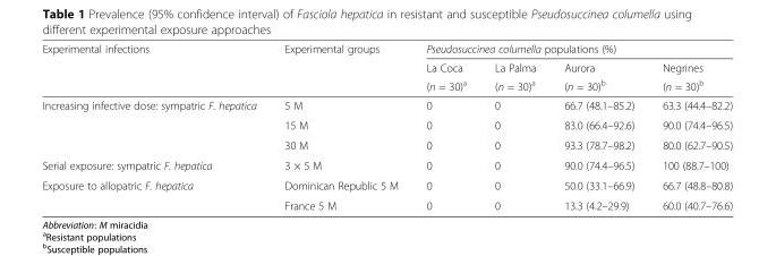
<table><thead><tr><td rowspan="3">Experimental infections</td><td rowspan="3">Experimental groups</td><td colspan="4">Pseudosuccinea columella populations (%)</td></tr><tr><td rowspan="2">La Coca (n = 30)<sup>a</sup></td><td rowspan="2">La Palma (n = 30)<sup>a</sup></td><td rowspan="2">Aurora (n = 30)<sup>b</sup></td><td rowspan="2">Negrines (n = 30)<sup>b</sup></td></tr><tr></tr></thead><tbody><tr><td rowspan="3">Increasing infective dose: sympatric F. hepatica</td><td>5 M</td><td>0</td><td>0</td><td>66.7 (48.1–85.2)</td><td>63.3 (44.4–82.2)</td></tr><tr><td>15 M</td><td>0</td><td>0</td><td>83.0 (66.4–92.6)</td><td>90.0 (74.4–96.5)</td></tr><tr><td>30 M</td><td>0</td><td>0</td><td>93.3 (78.7–98.2)</td><td>80.0 (62.7–90.5)</td></tr><tr><td>Serial exposure: sympatric F. hepatica</td><td>3 × 5 M</td><td>0</td><td>0</td><td>90.0 (74.4–96.5)</td><td>100 (88.7–100)</td></tr><tr><td rowspan="2">Exposure to allopatric F. hepatica</td><td>Dominican Republic 5 M</td><td>0</td><td>0</td><td>50.0 (33.1–66.9)</td><td>66.7 (48.8–80.8)</td></tr><tr><td>France 5 M</td><td>0</td><td>0</td><td>13.3 (4.2–29.9)</td><td>60.0 (40.7–76.6)</td></tr></tbody></table>